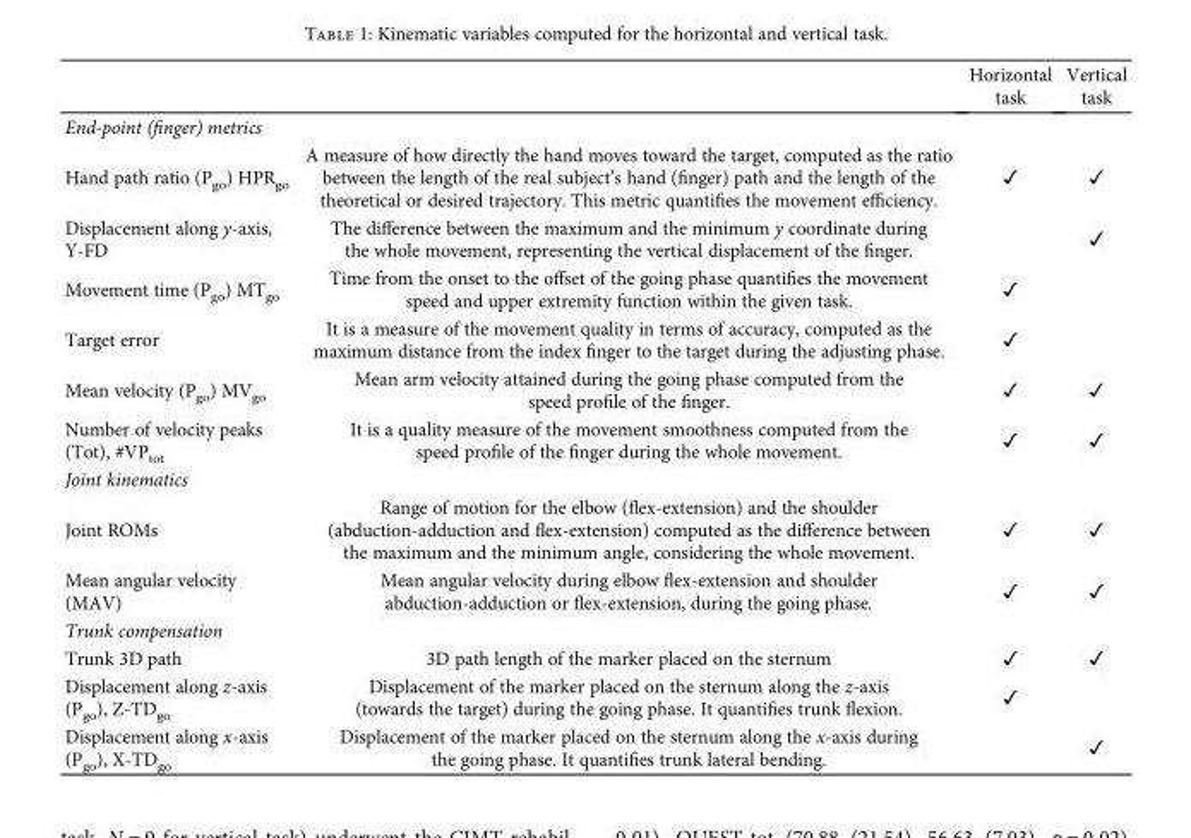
<table><thead><tr><td></td><td></td><td>Horizontal task</td><td>Vertical task</td></tr></thead><tbody><tr><td colspan="4">End-point (finger) metrics</td></tr><tr><td>Hand path ratio (P<sub>go</sub>) HPR<sub>go</sub></td><td>A measure of how directly the hand moves toward the target, computed as the ratio between the length of the real subject’s hand (finger) path and the length of the theoretical or desired trajectory. This metric quantifies the movement efficiency.</td><td>✓</td><td>✓</td></tr><tr><td>Displacement along y-axis, Y-FD</td><td>The difference between the maximum and the minimum y coordinate during the whole movement, representing the vertical displacement of the finger.</td><td></td><td>✓</td></tr><tr><td>Movement time (P<sub>go</sub>) MT<sub>go</sub></td><td>Time from the onset to the offset of the going phase quantifies the movement speed and upper extremity function within the given task.</td><td>✓</td><td></td></tr><tr><td>Target error</td><td>It is a measure of the movement quality in terms of accuracy, computed as the maximum distance from the index finger to the target during the adjusting phase.</td><td>✓</td><td></td></tr><tr><td>Mean velocity (P<sub>go</sub>) MV<sub>go</sub></td><td>Mean arm velocity attained during the going phase computed from the speed profile of the finger.</td><td>✓</td><td>✓</td></tr><tr><td>Number of velocity peaks (Tot), #VP<sub>tot</sub></td><td>It is a quality measure of the movement smoothness computed from the speed profile of the finger during the whole movement.</td><td>✓</td><td>✓</td></tr><tr><td colspan="4">Joint kinematics</td></tr><tr><td>Joint ROMs</td><td>Range of motion for the elbow (flex-extension) and the shoulder (abduction-adduction and flex-extension) computed as the difference between the maximum and the minimum angle, considering the whole movement.</td><td>✓</td><td>✓</td></tr><tr><td>Mean angular velocity (MAV)</td><td>Mean angular velocity during elbow flex-extension and shoulder abduction-adduction or flex-extension, during the going phase.</td><td>✓</td><td>✓</td></tr><tr><td colspan="4">Trunk compensation</td></tr><tr><td>Trunk 3D path</td><td>3D path length of the marker placed on the sternum</td><td>✓</td><td>✓</td></tr><tr><td>Displacement along z-axis (P<sub>go</sub>), Z-TD<sub>go</sub></td><td>Displacement of the marker placed on the sternum along the z-axis (towards the target) during the going phase. It quantifies trunk flexion.</td><td>✓</td><td></td></tr><tr><td>Displacement along x-axis (P<sub>go</sub>), X-TD<sub>go</sub></td><td>Displacement of the marker placed on the sternum along the x-axis during the going phase. It quantifies trunk lateral bending.</td><td></td><td>✓</td></tr></tbody></table>